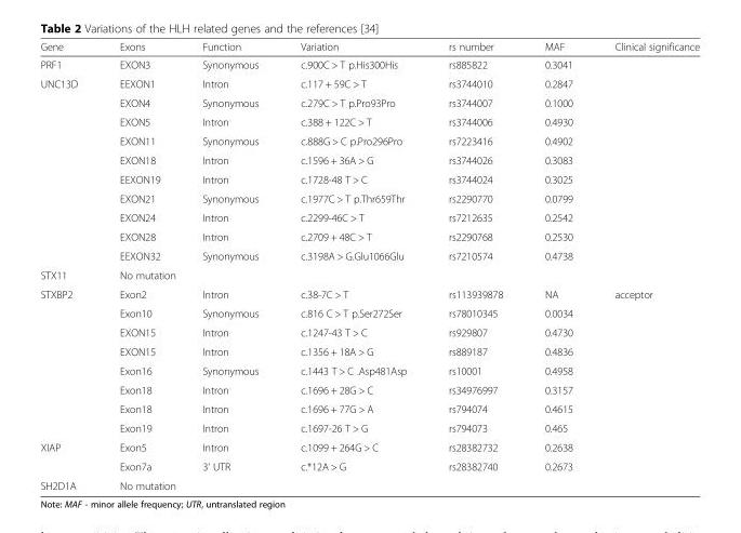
<table><thead><tr><td>Gene</td><td>Exons</td><td>Function</td><td>Variation</td><td>rs number</td><td>MAF</td><td>Clinical significance</td></tr></thead><tbody><tr><td>PRF1</td><td>EXON3</td><td>Synonymous</td><td>c.900C &gt; T p.His300His</td><td>rs885822</td><td>0.3041</td><td></td></tr><tr><td rowspan="10">UNC13D</td><td>EEXON1</td><td>Intron</td><td>c.117 + 59C &gt; T</td><td>rs3744010</td><td>0.2847</td><td></td></tr><tr><td>EXON4</td><td>Synonymous</td><td>c.279C &gt; T p.Pro93Pro</td><td>rs3744007</td><td>0.1000</td><td></td></tr><tr><td>EXON5</td><td>Intron</td><td>c.388 + 122C &gt; T</td><td>rs3744006</td><td>0.4930</td><td></td></tr><tr><td>EXON11</td><td>Synonymous</td><td>c.888G &gt; C p.Pro296Pro</td><td>rs7223416</td><td>0.4902</td><td></td></tr><tr><td>EXON18</td><td>Intron</td><td>c.1596 + 36A &gt; G</td><td>rs3744026</td><td>0.3083</td><td></td></tr><tr><td>EEXON19</td><td>Intron</td><td>c.1728-48 T &gt; C</td><td>rs3744024</td><td>0.3025</td><td></td></tr><tr><td>EXON21</td><td>Synonymous</td><td>c.1977C &gt; T p.Thr659Thr</td><td>rs2290770</td><td>0.0799</td><td></td></tr><tr><td>EXON24</td><td>Intron</td><td>c.2299-46C &gt; T</td><td>rs7212635</td><td>0.2542</td><td></td></tr><tr><td>EXON28</td><td>Intron</td><td>c.2709 + 48C &gt; T</td><td>rs2290768</td><td>0.2530</td><td></td></tr><tr><td>EEXON32</td><td>Synonymous</td><td>c.3198A &gt; G.Glu1066Glu</td><td>rs7210574</td><td>0.4738</td><td></td></tr><tr><td>STX11</td><td colspan="6">No mutation</td></tr><tr><td rowspan="8">STXBP2</td><td>Exon2</td><td>Intron</td><td>c.38-7C &gt; T</td><td>rs113939878</td><td>NA</td><td>acceptor</td></tr><tr><td>Exon10</td><td>Synonymous</td><td>c.816 C &gt; T p.Ser272Ser</td><td>rs78010345</td><td>0.0034</td><td></td></tr><tr><td>EXON15</td><td>Intron</td><td>c.1247-43 T &gt; C</td><td>rs929807</td><td>0.4730</td><td></td></tr><tr><td>EXON15</td><td>Intron</td><td>c.1356 + 18A &gt; G</td><td>rs889187</td><td>0.4836</td><td></td></tr><tr><td>Exon16</td><td>Synonymous</td><td>c.1443 T &gt; C .Asp481Asp</td><td>rs10001</td><td>0.4958</td><td></td></tr><tr><td>Exon18</td><td>Intron</td><td>c.1696 + 28G &gt; C</td><td>rs34976997</td><td>0.3157</td><td></td></tr><tr><td>Exon18</td><td>Intron</td><td>c.1696 + 77G &gt; A</td><td>rs794074</td><td>0.4615</td><td></td></tr><tr><td>Exon19</td><td>Intron</td><td>c.1697-26 T &gt; G</td><td>rs794073</td><td>0.465</td><td></td></tr><tr><td rowspan="2">XIAP</td><td>Exon5</td><td>Intron</td><td>c.1099 + 264G &gt; C</td><td>rs28382732</td><td>0.2638</td><td></td></tr><tr><td>Exon7a</td><td>3&#x27; UTR</td><td>c.*12A &gt; G</td><td>rs28382740</td><td>0.2673</td><td></td></tr><tr><td>SH2D1A</td><td colspan="6">No mutation</td></tr></tbody></table>